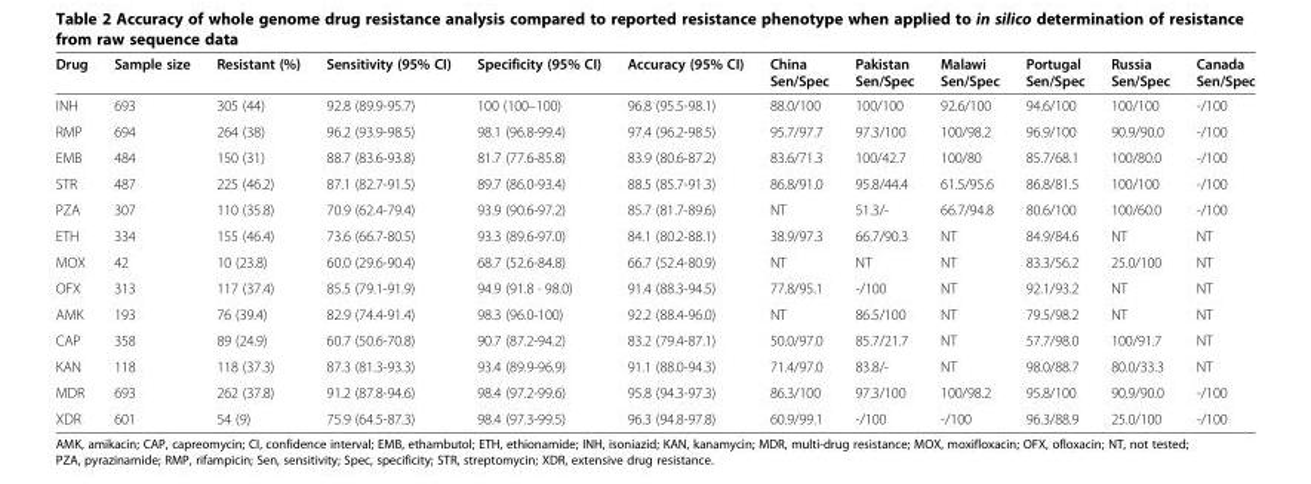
<table><thead><tr><td>Drug</td><td>Sample size</td><td>Resistant (%)</td><td>Sensitivity (95% CI)</td><td>Specificity (95% CI)</td><td>Accuracy (95% CI)</td><td>China Sen/Spec</td><td>Pakistan Sen/Spec</td><td>Malawi Sen/Spec</td><td>Portugal Sen/Spec</td><td>Russia Sen/Spec</td><td>Canada Sen/Spec</td></tr></thead><tbody><tr><td>INH</td><td>693</td><td>305 (44)</td><td>92.8 (89.9-95.7)</td><td>100 (100–100)</td><td>96.8 (95.5-98.1)</td><td>88.0/100</td><td>100/100</td><td>92.6/100</td><td>94.6/100</td><td>100/100</td><td>-/100</td></tr><tr><td>RMP</td><td>694</td><td>264 (38)</td><td>96.2 (93.9-98.5)</td><td>98.1 (96.8-99.4)</td><td>97.4 (96.2-98.5)</td><td>95.7/97.7</td><td>97.3/100</td><td>100/98.2</td><td>96.9/100</td><td>90.9/90.0</td><td>-/100</td></tr><tr><td>EMB</td><td>484</td><td>150 (31)</td><td>88.7 (83.6-93.8)</td><td>81.7 (77.6-85.8)</td><td>83.9 (80.6-87.2)</td><td>83.6/71.3</td><td>100/42.7</td><td>100/80</td><td>85.7/68.1</td><td>100/80.0</td><td>-/100</td></tr><tr><td>STR</td><td>487</td><td>225 (46.2)</td><td>87.1 (82.7-91.5)</td><td>89.7 (86.0-93.4)</td><td>88.5 (85.7-91.3)</td><td>86.8/91.0</td><td>95.8/44.4</td><td>61.5/95.6</td><td>86.8/81.5</td><td>100/100</td><td>-/100</td></tr><tr><td>PZA</td><td>307</td><td>110 (35.8)</td><td>70.9 (62.4-79.4)</td><td>93.9 (90.6-97.2)</td><td>85.7 (81.7-89.6)</td><td>NT</td><td>51.3/-</td><td>66.7/94.8</td><td>80.6/100</td><td>100/60.0</td><td>-/100</td></tr><tr><td>ETH</td><td>334</td><td>155 (46.4)</td><td>73.6 (66.7-80.5)</td><td>93.3 (89.6-97.0)</td><td>84.1 (80.2-88.1)</td><td>38.9/97.3</td><td>66.7/90.3</td><td>NT</td><td>84.9/84.6</td><td>NT</td><td>NT</td></tr><tr><td>MOX</td><td>42</td><td>10 (23.8)</td><td>60.0 (29.6-90.4)</td><td>68.7 (52.6-84.8)</td><td>66.7 (52.4-80.9)</td><td>NT</td><td>NT</td><td>NT</td><td>83.3/56.2</td><td>25.0/100</td><td>NT</td></tr><tr><td>OFX</td><td>313</td><td>117 (37.4)</td><td>85.5 (79.1-91.9)</td><td>94.9 (91.8 · 98.0)</td><td>91.4 (88.3-94.5)</td><td>77.8/95.1</td><td>-/100</td><td>NT</td><td>92.1/93.2</td><td>NT</td><td>NT</td></tr><tr><td>AMK</td><td>193</td><td>76 (39.4)</td><td>82.9 (74.4-91.4)</td><td>98.3 (96.0-100)</td><td>92.2 (88.4-96.0)</td><td>NT</td><td>86.5/100</td><td>NT</td><td>79.5/98.2</td><td>NT</td><td>NT</td></tr><tr><td>CAP</td><td>358</td><td>89 (24.9)</td><td>60.7 (50.6-70.8)</td><td>90.7 (87.2-94.2)</td><td>83.2 (79.4-87.1)</td><td>50.0/97.0</td><td>85.7/21.7</td><td>NT</td><td>57.7/98.0</td><td>100/91.7</td><td>NT</td></tr><tr><td>KAN</td><td>118</td><td>118 (37.3)</td><td>87.3 (81.3-93.3)</td><td>93.4 (89.9-96.9)</td><td>91.1 (88.0-94.3)</td><td>71.4/97.0</td><td>83.8/-</td><td>NT</td><td>98.0/88.7</td><td>80.0/33.3</td><td>NT</td></tr><tr><td>MDR</td><td>693</td><td>262 (37.8)</td><td>91.2 (87.8-94.6)</td><td>98.4 (97.2-99.6)</td><td>95.8 (94.3-97.3)</td><td>86.3/100</td><td>97.3/100</td><td>100/98.2</td><td>95.8/100</td><td>90.9/90.0</td><td>-/100</td></tr><tr><td>XDR</td><td>601</td><td>54 (9)</td><td>75.9 (64.5-87.3)</td><td>98.4 (97.3-99.5)</td><td>96.3 (94.8-97.8)</td><td>60.9/99.1</td><td>-/100</td><td>-/100</td><td>96.3/88.9</td><td>25.0/100</td><td>-/100</td></tr></tbody></table>